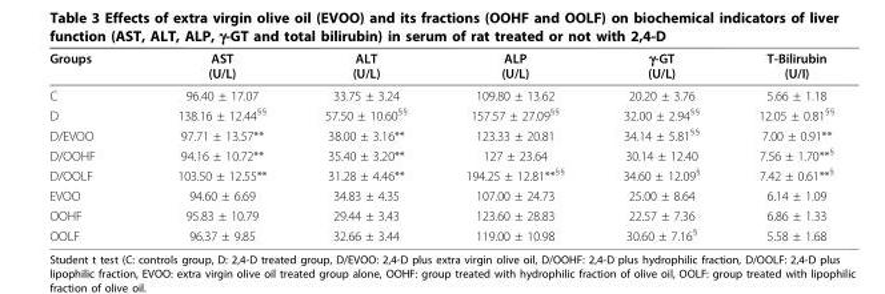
<table><thead><tr><td>Groups</td><td>AST (U/L)</td><td>ALT (U/L)</td><td>ALP (U/L)</td><td>γ-GT (U/L)</td><td>T-Bilirubin (U/I)</td></tr></thead><tbody><tr><td>C</td><td>96.40 ± 17.07</td><td>33.75 ± 3.24</td><td>109.80 ± 13.62</td><td>20.20 ± 3.76</td><td>5.66 ± 1.18</td></tr><tr><td>D</td><td>138.16 ± 12.44<sup>§§</sup></td><td>57.50 ± 10.60<sup>§§</sup></td><td>157.57 ± 27.09<sup>§§</sup></td><td>32.00 ± 2.94<sup>§§</sup></td><td>12.05 ± 0.81<sup>§§</sup></td></tr><tr><td>D/EVOO</td><td>97.71 ± 13.57**</td><td>38.00 ± 3.16**</td><td>123.33 ± 20.81</td><td>34.14 ± 5.81<sup>§§</sup></td><td>7.00 ± 0.91**</td></tr><tr><td>D/OOHF</td><td>94.16 ± 10.72**</td><td>35.40 ± 3.20**</td><td>127 ± 23.64</td><td>30.14 ± 12.40</td><td>7.56 ± 1.70**<sup>§</sup></td></tr><tr><td>D/OOLF</td><td>103.50 ± 12.55**</td><td>31.28 ± 4.46**</td><td>194.25 ± 12.81**<sup>§§</sup></td><td>34.60 ± 12.09<sup>§</sup></td><td>7.42 ± 0.61**<sup>§</sup></td></tr><tr><td>EVOO</td><td>94.60 ± 6.69</td><td>34.83 ± 4.35</td><td>107.00 ± 24.73</td><td>25.00 ± 8.64</td><td>6.14 ± 1.09</td></tr><tr><td>OOHF</td><td>95.83 ± 10.79</td><td>29.44 ± 3.43</td><td>123.60 ± 28.83</td><td>22.57 ± 7.36</td><td>6.86 ± 1.33</td></tr><tr><td>OOLF</td><td>96.37 ± 9.85</td><td>32.66 ± 3.44</td><td>119.00 ± 10.98</td><td>30.60 ± 7.16<sup>§</sup></td><td>5.58 ± 1.68</td></tr></tbody></table>